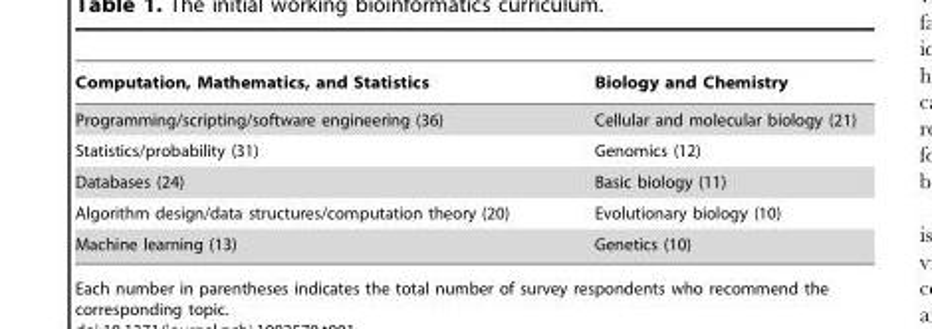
<table><thead><tr><td>Computation, Mathematics, and Statistics</td><td>Biology and Chemistry</td></tr></thead><tbody><tr><td>Programming/scripting/software engineering (36)</td><td>Cellular and molecular biology (21)</td></tr><tr><td>Statistics/probability (31)</td><td>Genomics (12)</td></tr><tr><td>Databases (24)</td><td>Basic biology (11)</td></tr><tr><td>Algorithm design/data structures/computation theory (20)</td><td>Evolutionary biology (10)</td></tr><tr><td>Machine learning (13)</td><td>Genetics (10)</td></tr></tbody></table>